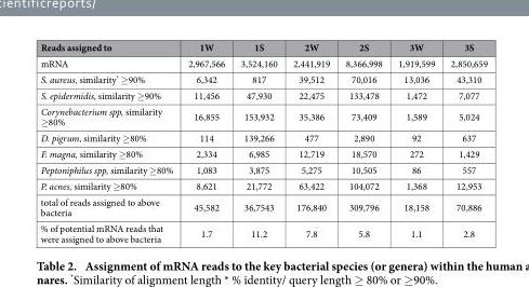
<table><thead><tr><td>Reads assigned to</td><td>1W</td><td>1S</td><td>2W</td><td>2S</td><td>3W</td><td>3S</td></tr></thead><tbody><tr><td>mRNA</td><td>2,967,566</td><td>3,524,160</td><td>2,441,919</td><td>8,366,998</td><td>1,919,599</td><td>2,850,659</td></tr><tr><td>S. aureus, similarity* ≥ 90%</td><td>6,342</td><td>817</td><td>39,512</td><td>70,016</td><td>13,036</td><td>43,310</td></tr><tr><td>S. epidermidis, similarity ≥ 90%</td><td>11,456</td><td>47,930</td><td>22,475</td><td>133,478</td><td>1,472</td><td>7,077</td></tr><tr><td>Corynebacterium spp, similarity ≥ 80%</td><td>16,855</td><td>153,932</td><td>35,386</td><td>73,409</td><td>1,589</td><td>5,024</td></tr><tr><td>D. pigrum, similarity ≥ 80%</td><td>114</td><td>139,266</td><td>477</td><td>2,890</td><td>92</td><td>637</td></tr><tr><td>F. magna, similarity ≥ 80%</td><td>2,334</td><td>6,985</td><td>12,719</td><td>18,570</td><td>272</td><td>1,429</td></tr><tr><td>Peptoniphilus spp, similarity ≥ 80%</td><td>1,083</td><td>3,875</td><td>5,275</td><td>10,505</td><td>86</td><td>557</td></tr><tr><td>P. acnes, similarity ≥ 80%</td><td>8,621</td><td>21,772</td><td>63,422</td><td>104,072</td><td>1,368</td><td>12,953</td></tr><tr><td>total of reads assigned to above bacteria</td><td>45,582</td><td>36,7543</td><td>176,840</td><td>309,796</td><td>18,158</td><td>70,886</td></tr><tr><td>% of potential mRNA reads that were assigned to above bacteria</td><td>1.7</td><td>11.2</td><td>7.8</td><td>5.8</td><td>1.1</td><td>2.8</td></tr></tbody></table>